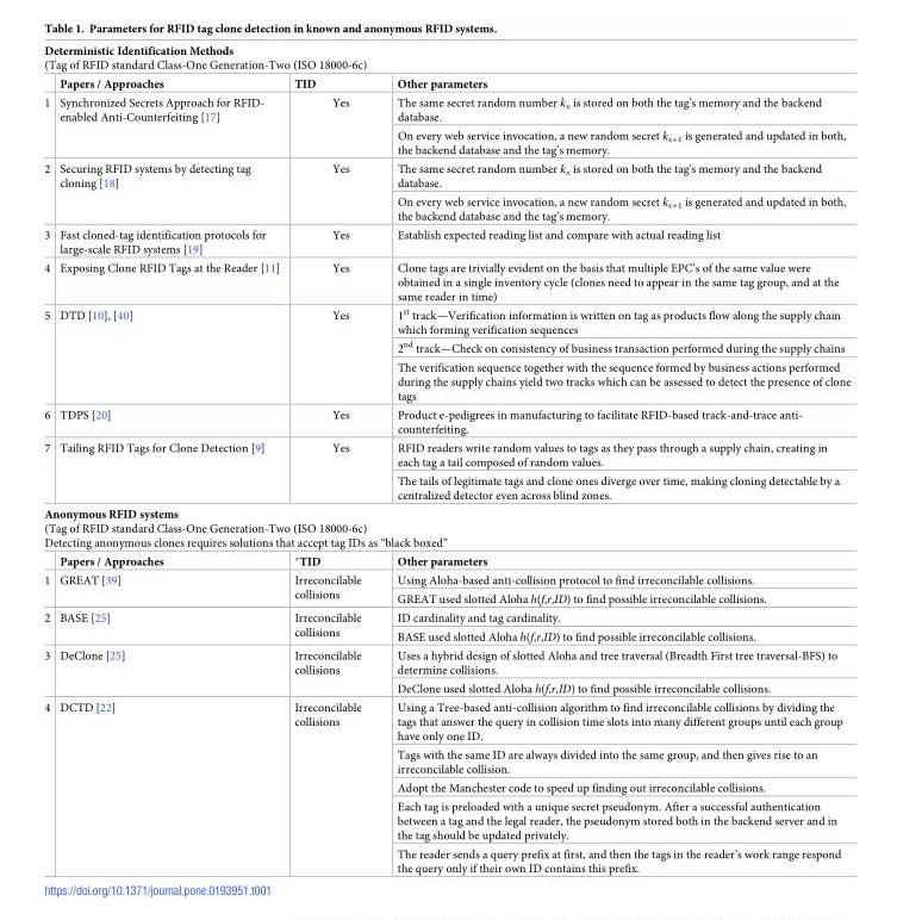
<table><tbody><tr><td colspan="4">Deterministic Identification Methods (Tag of RFID standard Class-One Generation-Two (ISO 18000-6c)</td></tr><tr><td></td><td>Papers / Approaches</td><td>TID</td><td>Other parameters</td></tr><tr><td rowspan="2">1</td><td rowspan="2">Synchronized Secrets Approach for RFID- enabled Anti-Counterfeiting [17]</td><td rowspan="2">Yes</td><td>The same secret random number k<sub>x</sub> is stored on both the tag’s memory and the backend database.</td></tr><tr><td>On every web service invocation, a new random secret k<sub>x+1</sub> is generated and updated in both, the backend database and the tag’s memory.</td></tr><tr><td rowspan="2">2</td><td rowspan="2">Securing RFID systems by detecting tag cloning [18]</td><td rowspan="2">Yes</td><td>The same secret random number k<sub>x</sub> is stored on both the tag’s memory and the backend database.</td></tr><tr><td>On every web service invocation, a new random secret k<sub>x+1</sub> is generated and updated in both, the backend database and the tag’s memory.</td></tr><tr><td>3</td><td>Fast cloned-tag identification protocols for large-scale RFID systems [19]</td><td>Yes</td><td>Establish expected reading list and compare with actual reading list</td></tr><tr><td>4</td><td>Exposing Clone RFID Tags at the Reader [11]</td><td>Yes</td><td>Clone tags are trivially evident on the basis that multiple EPC’s of the same value were obtained in a single inventory cycle (clones need to appear in the same tag group, and at the same reader in time)</td></tr><tr><td rowspan="3">5</td><td rowspan="3">DTD [10], [40]</td><td rowspan="3">Yes</td><td>1<sup>st</sup> track—Verification information is written on tag as products flow along the supply chain which forming verification sequences</td></tr><tr><td>2<sup>nd</sup> track—Check on consistency of business transaction performed during the supply chains</td></tr><tr><td>The verification sequence together with the sequence formed by business actions performed during the supply chains yield two tracks which can be assessed to detect the presence of clone tags</td></tr><tr><td>6</td><td>TDPS [20]</td><td>Yes</td><td>Product e-pedigrees in manufacturing to facilitate RFID-based track-and-trace anti- counterfeiting.</td></tr><tr><td rowspan="2">7</td><td rowspan="2">Tailing RFID Tags for Clone Detection [9]</td><td rowspan="2">Yes</td><td>RFID readers write random values to tags as they pass through a supply chain, creating in each tag a tail composed of random values.</td></tr><tr><td>The tails of legitimate tags and clone ones diverge over time, making cloning detectable by a centralized detector even across blind zones.</td></tr><tr><td colspan="4">Anonymous RFID systems (Tag of RFID standard Class-One Generation-Two (ISO 18000-6c) Detecting anonymous clones requires solutions that accept tag IDs as “black boxed”</td></tr><tr><td></td><td>Papers / Approaches</td><td>*TID</td><td>Other parameters</td></tr><tr><td rowspan="2">1</td><td rowspan="2">GREAT [39]</td><td rowspan="2">Irreconcilable collisions</td><td>Using Aloha-based anti-collision protocol to find irreconcilable collisions.</td></tr><tr><td>GREAT used slotted Aloha h(f,r,ID) to find possible irreconcilable collisions.</td></tr><tr><td rowspan="2">2</td><td rowspan="2">BASE [25]</td><td rowspan="2">Irreconcilable collisions</td><td>ID cardinality and tag cardinality.</td></tr><tr><td>BASE used slotted Aloha h(f,r,ID) to find possible irreconcilable collisions.</td></tr><tr><td rowspan="2">3</td><td rowspan="2">DeClone [25]</td><td rowspan="2">Irreconcilable collisions</td><td>Uses a hybrid design of slotted Aloha and tree traversal (Breadth First tree traversal-BFS) to determine collisions.</td></tr><tr><td>DeClone used slotted Aloha h(f,r,ID) to find possible irreconcilable collisions.</td></tr><tr><td rowspan="5">4</td><td rowspan="5">DCTD [22]</td><td rowspan="5">Irreconcilable collisions</td><td>Using a Tree-based anti-collision algorithm to find irreconcilable collisions by dividing the tags that answer the query in collision time slots into many different groups until each group have only one ID.</td></tr><tr><td>Tags with the same ID are always divided into the same group, and then gives rise to an irreconcilable collision.</td></tr><tr><td>Adopt the Manchester code to speed up finding out irreconcilable collisions.</td></tr><tr><td>Each tag is preloaded with a unique secret pseudonym. After a successful authentication between a tag and the legal reader, the pseudonym stored both in the backend server and in the tag should be updated privately.</td></tr><tr><td>The reader sends a query prefix at first, and then the tags in the reader’s work range respond the query only if their own ID contains this prefix.</td></tr></tbody></table>